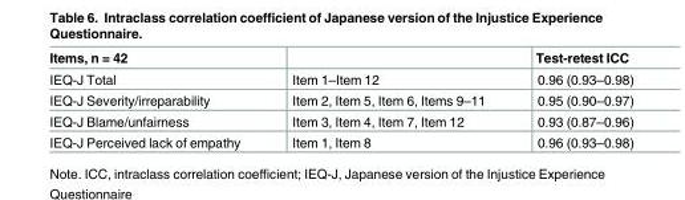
<table><thead><tr><td>Items, n = 42</td><td></td><td>Test-retest ICC</td></tr></thead><tbody><tr><td>IEQ-J Total</td><td>Item 1–Item 12</td><td>0.96 (0.93–0.98)</td></tr><tr><td>IEQ-J Severity/irreparability</td><td>Item 2, Item 5, Item 6, Items 9–11</td><td>0.95 (0.90–0.97)</td></tr><tr><td>IEQ-J Blame/unfairness</td><td>Item 3, Item 4, Item 7, Item 12</td><td>0.93 (0.87–0.96)</td></tr><tr><td>IEQ-J Perceived lack of empathy</td><td>Item 1, Item 8</td><td>0.96 (0.93–0.98)</td></tr></tbody></table>